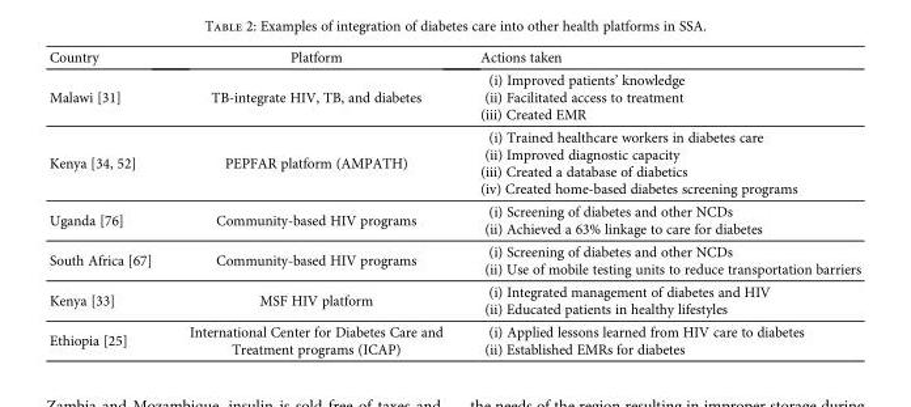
<table><thead><tr><td>Country</td><td>Platform</td><td>Actions taken</td></tr></thead><tbody><tr><td>Malawi [31]</td><td>TB-integrate HIV, TB, and diabetes</td><td>(i) Improved patients’ knowledge (ii) Facilitated access to treatment (iii) Created EMR</td></tr><tr><td>Kenya [34, 52]</td><td>PEPFAR platform (AMPATH)</td><td>(i) Trained healthcare workers in diabetes care (ii) Improved diagnostic capacity (iii) Created a database of diabetics (iv) Created home-based diabetes screening programs</td></tr><tr><td>Uganda [76]</td><td>Community-based HIV programs</td><td>(i) Screening of diabetes and other NCDs (ii) Achieved a 63% linkage to care for diabetes</td></tr><tr><td>South Africa [67]</td><td>Community-based HIV programs</td><td>(i) Screening of diabetes and other NCDs (ii) Use of mobile testing units to reduce transportation barriers</td></tr><tr><td>Kenya [33]</td><td>MSF HIV platform</td><td>(i) Integrated management of diabetes and HIV (ii) Educated patients in healthy lifestyles</td></tr><tr><td>Ethiopia [25]</td><td>International Center for Diabetes Care and Treatment programs (ICAP)</td><td>(i) Applied lessons learned from HIV care to diabetes (ii) Established EMRs for diabetes</td></tr></tbody></table>